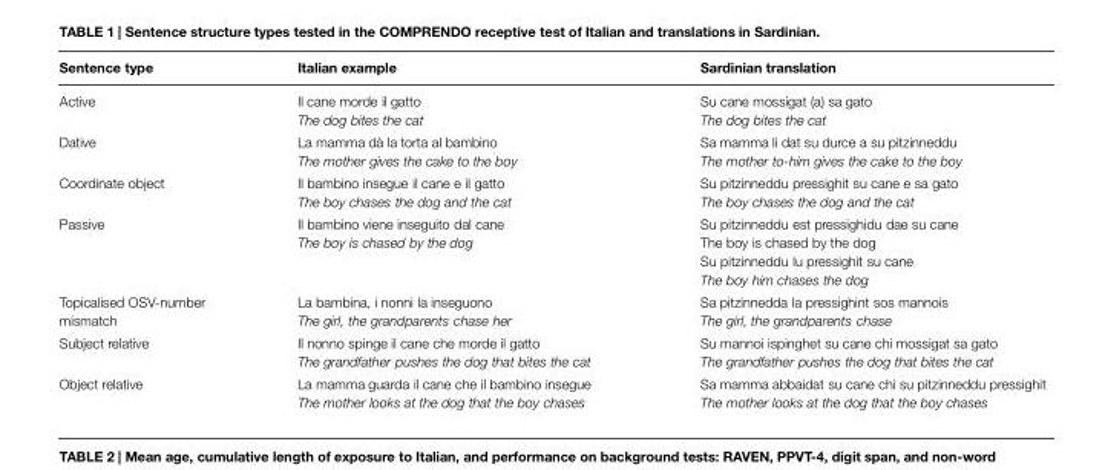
<table><thead><tr><td>Sentence type</td><td>Italian example</td><td>Sardinian translation</td></tr></thead><tbody><tr><td>Active</td><td>Il cane morde il gatto The dog bites the cat</td><td>Su cane mossigat (a) sa gato The dog bites the cat</td></tr><tr><td>Dative</td><td>La mamma dà la torta al bambino The mother gives the cake to the boy</td><td>Sa mamma li dat su durce a su pitzinneddu The mother to-him gives the cake to the boy</td></tr><tr><td>Coordinate object</td><td>Il bambino insegue il cane e il gatto The boy chases the dog and the cat</td><td>Su pitzinneddu pressighit su cane e sa gato The boy chases the dog and the cat</td></tr><tr><td>Passive</td><td>Il bambino viene inseguito dal cane The boy is chased by the dog</td><td>Su pitzinneddu est pressighidu dae su cane The boy is chased by the dog Su pitzinneddu lu pressighit su cane The boy him chases the dog</td></tr><tr><td>Topicalised OSV-number mismatch</td><td>La bambina, i nonni la inseguono The girl, the grandparents chase her</td><td>Sa pitzinnedda la pressighint sos mannois The girl, the grandparents chase</td></tr><tr><td>Subject relative</td><td>Il nonno spinge il cane che morde il gatto The grandfather pushes the dog that bites the cat</td><td>Su mannoi ispinghet su cane chi mossigat sa gato The grandfather pushes the dog that bites the cat</td></tr><tr><td>Object relative</td><td>La mamma guarda il cane che il bambino insegue The mother looks at the dog that the boy chases</td><td>Sa mamma abbaidat su cane chi su pitzinneddu pressighit The mother looks at the dog that the boy chases</td></tr></tbody></table>